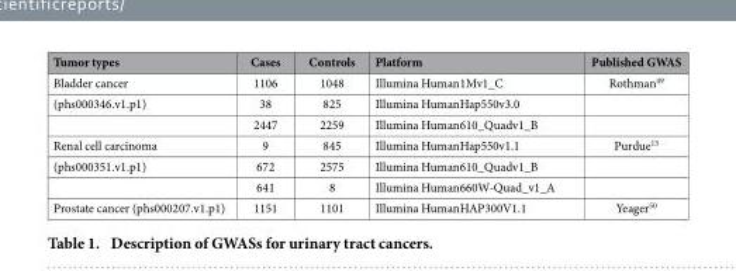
<table><thead><tr><td>Tumor types</td><td>Cases</td><td>Controls</td><td>Platform</td><td>Published GWAS</td></tr></thead><tbody><tr><td>Bladder cancer</td><td>1106</td><td>1048</td><td>Illumina Human1Mv1_C</td><td>Rothman<sup>49</sup></td></tr><tr><td rowspan="2">(phs000346.v1.p1)</td><td>38</td><td>825</td><td>Illumina HumanHap550v3.0</td><td></td></tr><tr><td>2447</td><td>2259</td><td>Illumina Human610_Quadv1_B</td><td></td></tr><tr><td>Renal cell carcinoma</td><td>9</td><td>845</td><td>Illumina HumanHap550v1.1</td><td>Purdue<sup>13</sup></td></tr><tr><td rowspan="2">(phs000351.v1.p1)</td><td>672</td><td>2575</td><td>Illumina Human610_Quadv1_B</td><td></td></tr><tr><td>641</td><td>8</td><td>Illumina Human660W-Quad_v1_A</td><td></td></tr><tr><td>Prostate cancer (phs000207.v1.p1)</td><td>1151</td><td>1101</td><td>Illumina HumanHAP300V1.1</td><td>Yeager<sup>50</sup></td></tr></tbody></table>